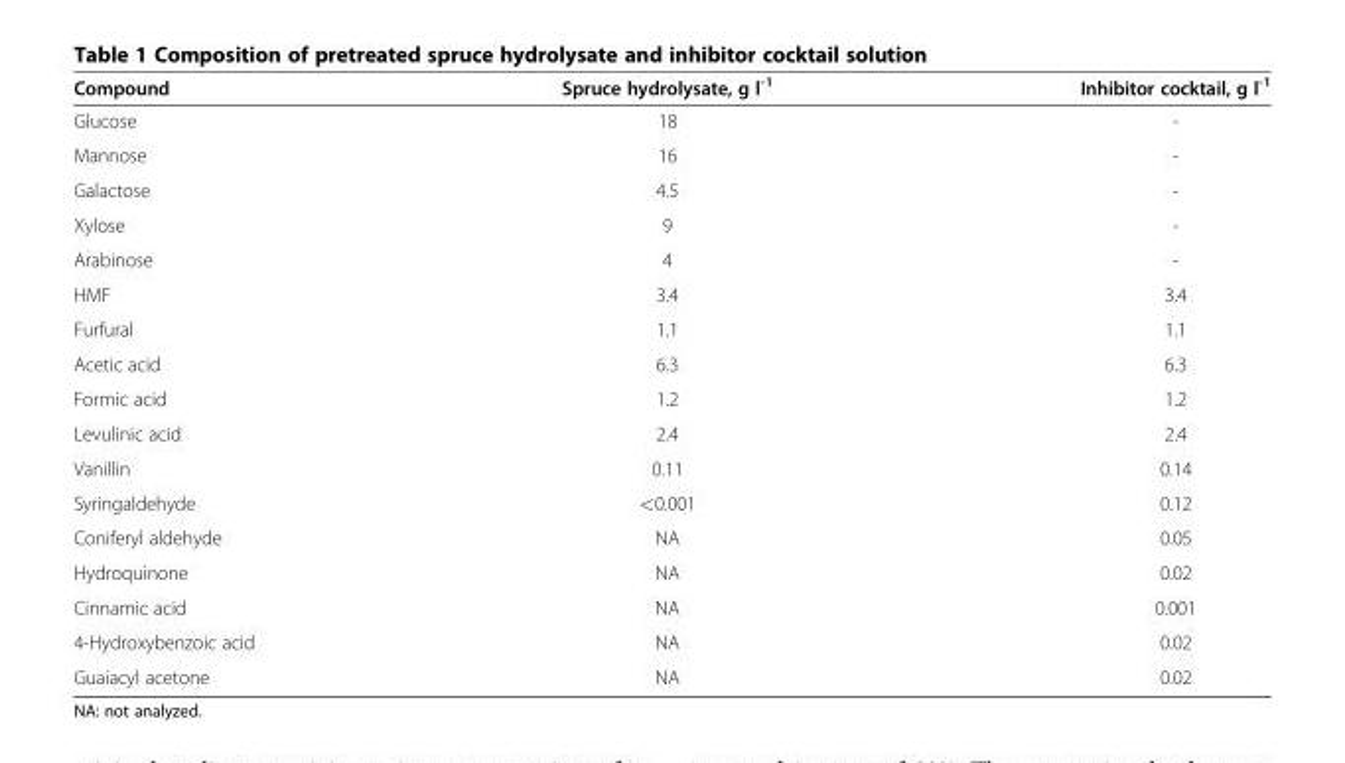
<table><thead><tr><td>Compound</td><td>Spruce hydrolysate, g l<sup>-1</sup></td><td>Inhibitor cocktail, g l<sup>-1</sup></td></tr></thead><tbody><tr><td>Glucose</td><td>18</td><td>-</td></tr><tr><td>Mannose</td><td>16</td><td>-</td></tr><tr><td>Galactose</td><td>4.5</td><td>-</td></tr><tr><td>Xylose</td><td>9</td><td>-</td></tr><tr><td>Arabinose</td><td>4</td><td>-</td></tr><tr><td>HMF</td><td>3.4</td><td>3.4</td></tr><tr><td>Furfural</td><td>1.1</td><td>1.1</td></tr><tr><td>Acetic acid</td><td>6.3</td><td>6.3</td></tr><tr><td>Formic acid</td><td>1.2</td><td>1.2</td></tr><tr><td>Levulinic acid</td><td>2.4</td><td>2.4</td></tr><tr><td>Vanillin</td><td>0.11</td><td>0.14</td></tr><tr><td>Syringaldehyde</td><td>&lt;0.001</td><td>0.12</td></tr><tr><td>Coniferyl aldehyde</td><td>NA</td><td>0.05</td></tr><tr><td>Hydroquinone</td><td>NA</td><td>0.02</td></tr><tr><td>Cinnamic acid</td><td>NA</td><td>0.001</td></tr><tr><td>4-Hydroxybenzoic acid</td><td>NA</td><td>0.02</td></tr><tr><td>Guaiacyl acetone</td><td>NA</td><td>0.02</td></tr></tbody></table>